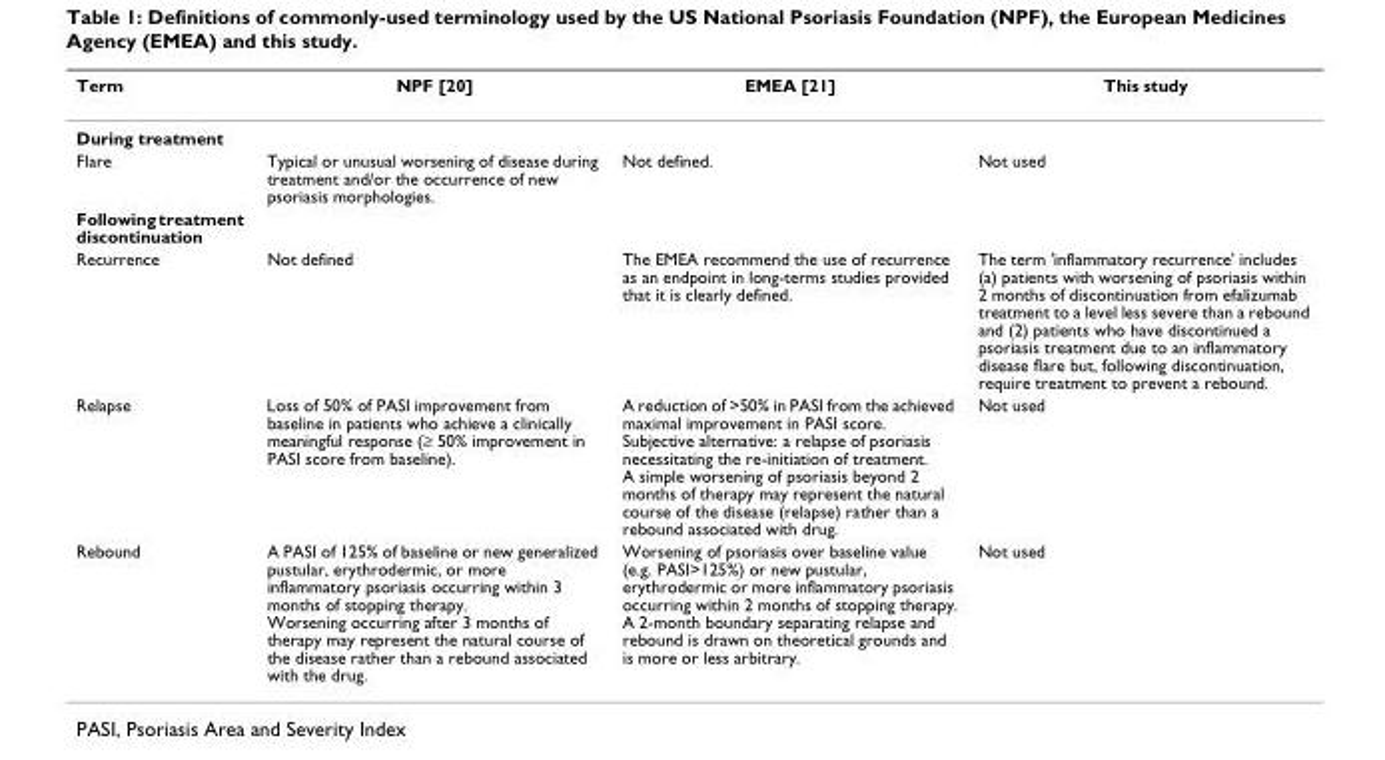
<table><thead><tr><td>Term</td><td>NPF [20]</td><td>EMEA [21]</td><td>This study</td></tr></thead><tbody><tr><td colspan="4">During treatment</td></tr><tr><td>Flare</td><td>Typical or unusual worsening of disease during treatment and/or the occurrence of new psoriasis morphologies.</td><td>Not defined.</td><td>Not used</td></tr><tr><td colspan="4">Following treatment discontinuation</td></tr><tr><td>Recurrence</td><td>Not defined</td><td>The EMEA recommend the use of recurrence as an endpoint in long-terms studies provided that it is clearly defined.</td><td>The term &#x27;inflammatory recurrence&#x27; includes (a) patients with worsening of psoriasis within 2 months of discontinuation from efalizumab treatment to a level less severe than a rebound and (2) patients who have discontinued a psoriasis treatment due to an inflammatory disease flare but, following discontinuation, require treatment to prevent a rebound.</td></tr><tr><td>Relapse</td><td>Loss of 50% of PASI improvement from baseline in patients who achieve a clinically meaningful response (≥ 50% improvement in PASI score from baseline).</td><td>A reduction of &gt;50% in PASI from the achieved maximal improvement in PASI score. Subjective alternative: a relapse of psoriasis necessitating the re-initiation of treatment. A simple worsening of psoriasis beyond 2 months of therapy may represent the natural course of the disease (relapse) rather than a rebound associated with drug.</td><td>Not used</td></tr><tr><td>Rebound</td><td>A PASI of 125% of baseline or new generalized pustular, erythrodermic, or more inflammatory psoriasis occurring within 3 months of stopping therapy. Worsening occurring after 3 months of therapy may represent the natural course of the disease rather than a rebound associated with the drug.</td><td>Worsening of psoriasis over baseline value (e.g. PASI&gt;125%) or new pustular, erythrodermic or more inflammatory psoriasis occurring within 2 months of stopping therapy. A 2-month boundary separating relapse and rebound is drawn on theoretical grounds and is more or less arbitrary.</td><td>Not used</td></tr></tbody></table>